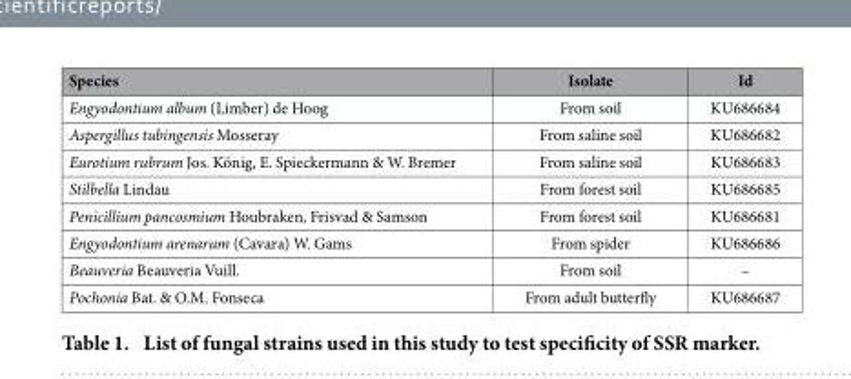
<table><thead><tr><td>Species</td><td>Isolate</td><td>Id</td></tr></thead><tbody><tr><td>Engyodontium album (Limber) de Hoog</td><td>From soil</td><td>KU686684</td></tr><tr><td>Aspergillus tubingensis Mosseray</td><td>From saline soil</td><td>KU686682</td></tr><tr><td>Eurotium rubrum Jos. König, E. Spieckermann &amp; W. Bremer</td><td>From saline soil</td><td>KU686683</td></tr><tr><td>Stilbella Lindau</td><td>From forest soil</td><td>KU686685</td></tr><tr><td>Penicillium pancosmium Houbraken, Frisvad &amp; Samson</td><td>From forest soil</td><td>KU686681</td></tr><tr><td>Engyodontium arenarum (Cavara) W. Gams</td><td>From spider</td><td>KU686686</td></tr><tr><td>Beauveria Beauveria Vuill.</td><td>From soil</td><td>–</td></tr><tr><td>Pochonia Bat. &amp; O.M. Fonseca</td><td>From adult butterfly</td><td>KU686687</td></tr></tbody></table>